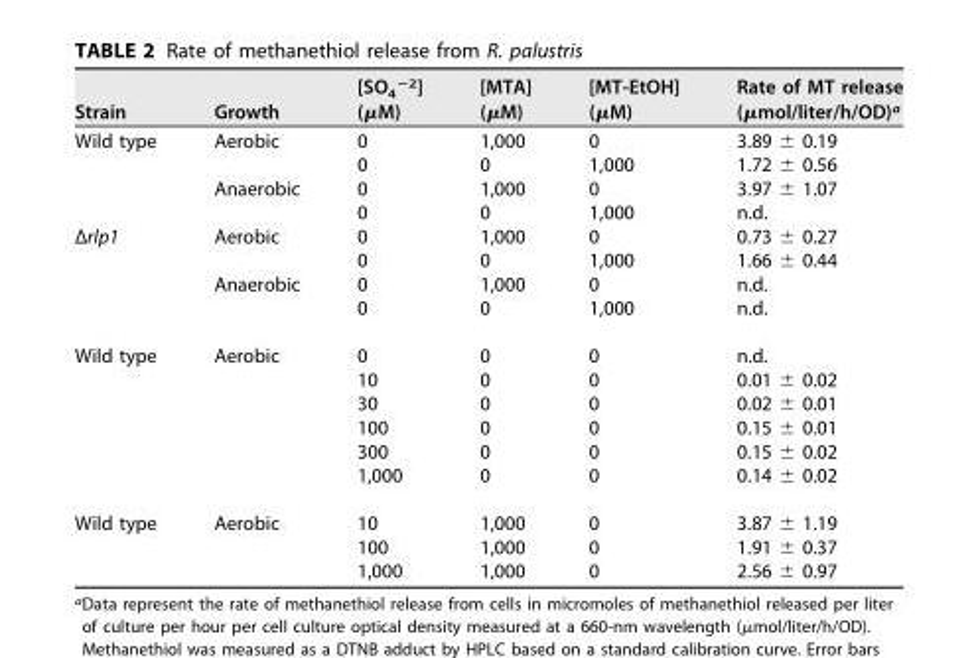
<table><thead><tr><td>Strain</td><td>Growth</td><td>[SO<sub>4</sub><sup>−2</sup>] (μM)</td><td>[MTA] (μM)</td><td>[MT-EtOH] (μM)</td><td>Rate of MT release (μmol/liter/h/OD)<sup>a</sup></td></tr></thead><tbody><tr><td rowspan="4">Wild type</td><td rowspan="2">Aerobic</td><td>0</td><td>1,000</td><td>0</td><td>3.89 ± 0.19</td></tr><tr><td>0</td><td>0</td><td>1,000</td><td>1.72 ± 0.56</td></tr><tr><td rowspan="2">Anaerobic</td><td>0</td><td>1,000</td><td>0</td><td>3.97 ± 1.07</td></tr><tr><td>0</td><td>0</td><td>1,000</td><td>n.d.</td></tr><tr><td rowspan="4">Δrlp1</td><td rowspan="2">Aerobic</td><td>0</td><td>1,000</td><td>0</td><td>0.73 ± 0.27</td></tr><tr><td>0</td><td>0</td><td>1,000</td><td>1.66 ± 0.44</td></tr><tr><td rowspan="2">Anaerobic</td><td>0</td><td>1,000</td><td>0</td><td>n.d.</td></tr><tr><td>0</td><td>0</td><td>1,000</td><td>n.d.</td></tr><tr><td rowspan="6">Wild type</td><td rowspan="6">Aerobic</td><td>0</td><td>0</td><td>0</td><td>n.d.</td></tr><tr><td>10</td><td>0</td><td>0</td><td>0.01 ± 0.02</td></tr><tr><td>30</td><td>0</td><td>0</td><td>0.02 ± 0.01</td></tr><tr><td>100</td><td>0</td><td>0</td><td>0.15 ± 0.01</td></tr><tr><td>300</td><td>0</td><td>0</td><td>0.15 ± 0.02</td></tr><tr><td>1,000</td><td>0</td><td>0</td><td>0.14 ± 0.02</td></tr><tr><td rowspan="3">Wild type</td><td rowspan="3">Aerobic</td><td>10</td><td>1,000</td><td>0</td><td>3.87 ± 1.19</td></tr><tr><td>100</td><td>1,000</td><td>0</td><td>1.91 ± 0.37</td></tr><tr><td>1,000</td><td>1,000</td><td>0</td><td>2.56 ± 0.97</td></tr></tbody></table>